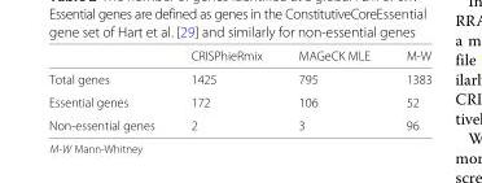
<table><thead><tr><td></td><td>CRISPhieRmix</td><td>MAGeCK MLE</td><td>M-W</td></tr></thead><tbody><tr><td>Total genes</td><td>1425</td><td>795</td><td>1383</td></tr><tr><td>Essential genes</td><td>172</td><td>106</td><td>52</td></tr><tr><td>Non-essential genes</td><td>2</td><td>3</td><td>96</td></tr></tbody></table>